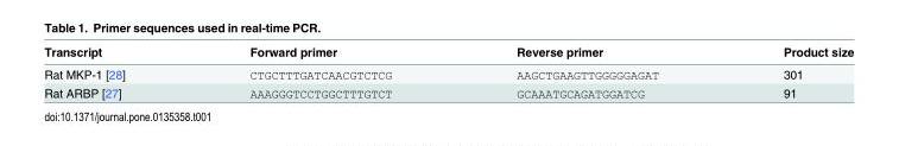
<table><thead><tr><td>Transcript</td><td>Forward primer</td><td>Reverse primer</td><td>Product size</td></tr></thead><tbody><tr><td>Rat MKP-1 [28]</td><td>CTGCTTTGATCAACGTCTCG</td><td>AAGCTGAAGTTGGGGGAGAT</td><td>301</td></tr><tr><td>Rat ARBP [27]</td><td>AAAGGGTCCTGGCTTTGTCT</td><td>GCAAATGCAGATGGATCG</td><td>91</td></tr></tbody></table>